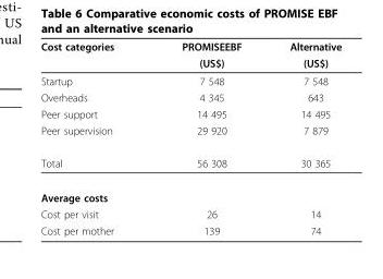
<table><thead><tr><td rowspan="2">Cost categories</td><td rowspan="2">PROMISEEBF (US$)</td><td rowspan="2">Alternative (US$)</td></tr><tr></tr></thead><tbody><tr><td>Startup</td><td>7 548</td><td>7 548</td></tr><tr><td>Overheads</td><td>4 345</td><td>643</td></tr><tr><td>Peer support</td><td>14 495</td><td>14 495</td></tr><tr><td>Peer supervision</td><td>29 920</td><td>7 879</td></tr><tr><td>Total</td><td>56 308</td><td>30 365</td></tr><tr><td colspan="3">Average costs</td></tr><tr><td>Cost per visit</td><td>26</td><td>14</td></tr><tr><td>Cost per mother</td><td>139</td><td>74</td></tr></tbody></table>